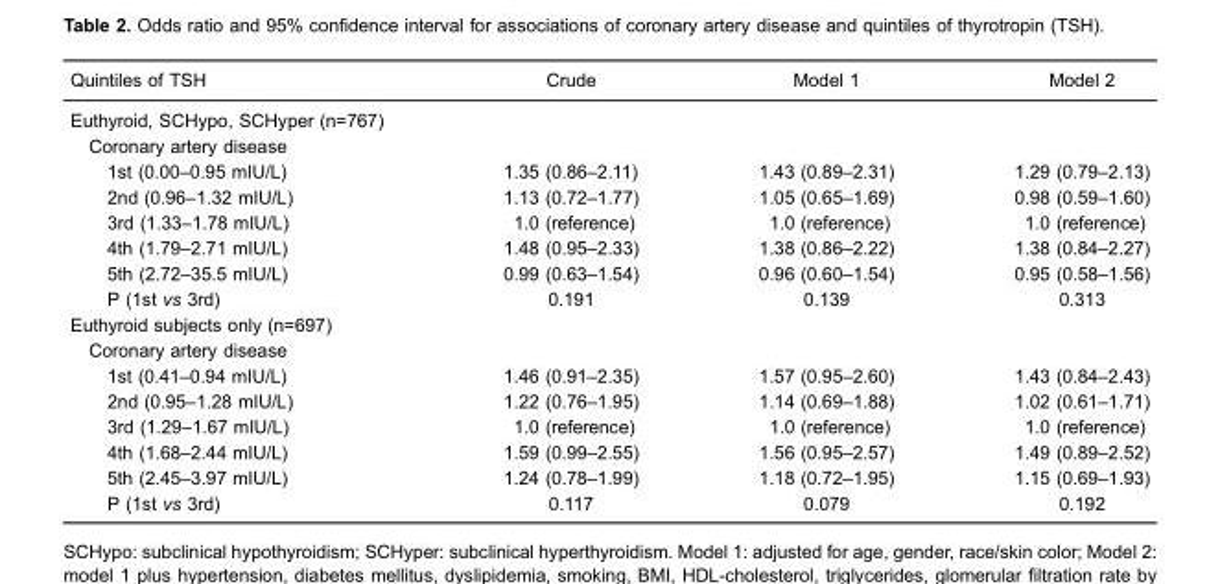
<table><thead><tr><td>Quintiles of TSH</td><td>Crude</td><td>Model 1</td><td>Model 2</td></tr></thead><tbody><tr><td colspan="4">Euthyroid, SCHypo, SCHyper (n=767)</td></tr><tr><td colspan="4">Coronary artery disease</td></tr><tr><td>1st (0.00–0.95 mIU/L)</td><td>1.35 (0.86–2.11)</td><td>1.43 (0.89–2.31)</td><td>1.29 (0.79–2.13)</td></tr><tr><td>2nd (0.96–1.32 mIU/L)</td><td>1.13 (0.72–1.77)</td><td>1.05 (0.65–1.69)</td><td>0.98 (0.59–1.60)</td></tr><tr><td>3rd (1.33–1.78 mIU/L)</td><td>1.0 (reference)</td><td>1.0 (reference)</td><td>1.0 (reference)</td></tr><tr><td>4th (1.79–2.71 mIU/L)</td><td>1.48 (0.95–2.33)</td><td>1.38 (0.86–2.22)</td><td>1.38 (0.84–2.27)</td></tr><tr><td>5th (2.72–35.5 mIU/L)</td><td>0.99 (0.63–1.54)</td><td>0.96 (0.60–1.54)</td><td>0.95 (0.58–1.56)</td></tr><tr><td>P (1st vs 3rd)</td><td>0.191</td><td>0.139</td><td>0.313</td></tr><tr><td colspan="4">Euthyroid subjects only (n=697)</td></tr><tr><td colspan="4">Coronary artery disease</td></tr><tr><td>1st (0.41–0.94 mIU/L)</td><td>1.46 (0.91–2.35)</td><td>1.57 (0.95–2.60)</td><td>1.43 (0.84–2.43)</td></tr><tr><td>2nd (0.95–1.28 mIU/L)</td><td>1.22 (0.76–1.95)</td><td>1.14 (0.69–1.88)</td><td>1.02 (0.61–1.71)</td></tr><tr><td>3rd (1.29–1.67 mIU/L)</td><td>1.0 (reference)</td><td>1.0 (reference)</td><td>1.0 (reference)</td></tr><tr><td>4th (1.68–2.44 mIU/L)</td><td>1.59 (0.99–2.55)</td><td>1.56 (0.95–2.57)</td><td>1.49 (0.89–2.52)</td></tr><tr><td>5th (2.45–3.97 mIU/L)</td><td>1.24 (0.78–1.99)</td><td>1.18 (0.72–1.95)</td><td>1.15 (0.69–1.93)</td></tr><tr><td>P (1st vs 3rd)</td><td>0.117</td><td>0.079</td><td>0.192</td></tr></tbody></table>